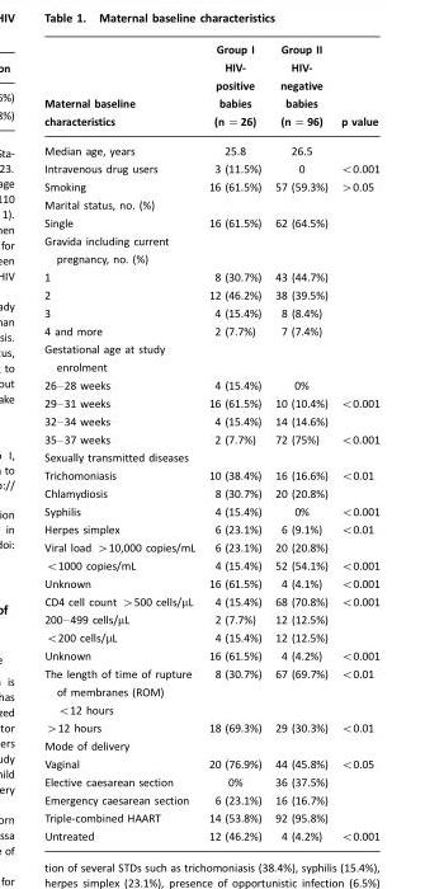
<table><thead><tr><td>Maternal baseline characteristics</td><td>Group I HIV- positive babies (n =26)</td><td>Group II HIV- negative babies (n =96)</td><td>p value</td></tr></thead><tbody><tr><td>Median age, years</td><td>25.8</td><td>26.5</td><td></td></tr><tr><td>Intravenous drug users</td><td>3 (11.5%)</td><td>0</td><td>&lt;0.001</td></tr><tr><td>Smoking</td><td>16 (61.5%)</td><td>57 (59.3%)</td><td>&gt;0.05</td></tr><tr><td colspan="4">Marital status, no. (%)</td></tr><tr><td>Single</td><td>16 (61.5%)</td><td>62 (64.5%)</td><td></td></tr><tr><td colspan="4">Gravida including current pregnancy, no. (%)</td></tr><tr><td>1</td><td>8 (30.7%)</td><td>43 (44.7%)</td><td></td></tr><tr><td>2</td><td>12 (46.2%)</td><td>38 (39.5%)</td><td></td></tr><tr><td>3</td><td>4 (15.4%)</td><td>8 (8.4%)</td><td></td></tr><tr><td>4 and more</td><td>2 (7.7%)</td><td>7 (7.4%)</td><td></td></tr><tr><td colspan="4">Gestational age at study enrolment</td></tr><tr><td>26–28 weeks</td><td>4 (15.4%)</td><td>0%</td><td></td></tr><tr><td>29–31 weeks</td><td>16 (61.5%)</td><td>10 (10.4%)</td><td>&lt;0.001</td></tr><tr><td>32–34 weeks</td><td>4 (15.4%)</td><td>14 (14.6%)</td><td></td></tr><tr><td>35–37 weeks</td><td>2 (7.7%)</td><td>72 (75%)</td><td>&lt;0.001</td></tr><tr><td colspan="4">Sexually transmitted diseases</td></tr><tr><td>Trichomoniasis</td><td>10 (38.4%)</td><td>16 (16.6%)</td><td>&lt;0.01</td></tr><tr><td>Chlamydiosis</td><td>8 (30.7%)</td><td>20 (20.8%)</td><td></td></tr><tr><td>Syphilis</td><td>4 (15.4%)</td><td>0%</td><td>&lt;0.001</td></tr><tr><td>Herpes simplex</td><td>6 (23.1%)</td><td>6 (9.1%)</td><td>&lt;0.01</td></tr><tr><td>Viral load &gt;10,000 copies/mL</td><td>6 (23.1%)</td><td>20 (20.8%)</td><td></td></tr><tr><td>&lt;1000 copies/mL</td><td>4 (15.4%)</td><td>52 (54.1%)</td><td>&lt;0.001</td></tr><tr><td>Unknown</td><td>16 (61.5%)</td><td>4 (4.1%)</td><td>&lt;0.001</td></tr><tr><td>CD4 cell count &gt;500 cells/µL</td><td>4 (15.4%)</td><td>68 (70.8%)</td><td>&lt;0.001</td></tr><tr><td>200–499 cells/µL</td><td>2 (7.7%)</td><td>12 (12.5%)</td><td></td></tr><tr><td>&lt;200 cells/µL</td><td>4 (15.4%)</td><td>12 (12.5%)</td><td></td></tr><tr><td>Unknown</td><td>16 (61.5%)</td><td>4 (4.2%)</td><td>&lt;0.001</td></tr><tr><td>The length of time of rupture of membranes (ROM) &lt;12 hours</td><td>8 (30.7%)</td><td>67 (69.7%)</td><td>&lt;0.01</td></tr><tr><td>&gt;12 hours</td><td>18 (69.3%)</td><td>29 (30.3%)</td><td>&lt;0.01</td></tr><tr><td colspan="4">Mode of delivery</td></tr><tr><td>Vaginal</td><td>20 (76.9%)</td><td>44 (45.8%)</td><td>&lt;0.05</td></tr><tr><td>Elective caesarean section</td><td>0%</td><td>36 (37.5%)</td><td></td></tr><tr><td>Emergency caesarean section</td><td>6 (23.1%)</td><td>16 (16.7%)</td><td></td></tr><tr><td>Triple-combined HAART</td><td>14 (53.8%)</td><td>92 (95.8%)</td><td></td></tr><tr><td>Untreated</td><td>12 (46.2%)</td><td>4 (4.2%)</td><td>&lt;0.001</td></tr></tbody></table>